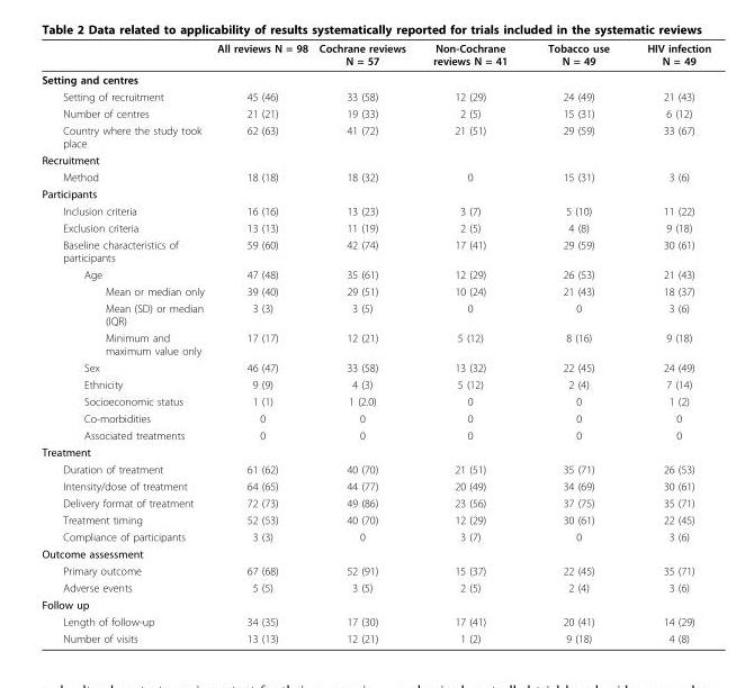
<table><thead><tr><td></td><td>All reviews N = 98</td><td>Cochrane reviews N = 57</td><td>Non-Cochrane reviews N = 41</td><td>Tobacco use N = 49</td><td>HIV infection N = 49</td></tr></thead><tbody><tr><td colspan="6">Setting and centres</td></tr><tr><td>Setting of recruitment</td><td>45 (46)</td><td>33 (58)</td><td>12 (29)</td><td>24 (49)</td><td>21 (43)</td></tr><tr><td>Number of centres</td><td>21 (21)</td><td>19 (33)</td><td>2 (5)</td><td>15 (31)</td><td>6 (12)</td></tr><tr><td>Country where the study took place</td><td>62 (63)</td><td>41 (72)</td><td>21 (51)</td><td>29 (59)</td><td>33 (67)</td></tr><tr><td colspan="6">Recruitment</td></tr><tr><td>Method</td><td>18 (18)</td><td>18 (32)</td><td>0</td><td>15 (31)</td><td>3 (6)</td></tr><tr><td colspan="6">Participants</td></tr><tr><td>Inclusion criteria</td><td>16 (16)</td><td>13 (23)</td><td>3 (7)</td><td>5 (10)</td><td>11 (22)</td></tr><tr><td>Exclusion criteria</td><td>13 (13)</td><td>11 (19)</td><td>2 (5)</td><td>4 (8)</td><td>9 (18)</td></tr><tr><td>Baseline characteristics of participants</td><td>59 (60)</td><td>42 (74)</td><td>17 (41)</td><td>29 (59)</td><td>30 (61)</td></tr><tr><td>Age</td><td>47 (48)</td><td>35 (61)</td><td>12 (29)</td><td>26 (53)</td><td>21 (43)</td></tr><tr><td>Mean or median only</td><td>39 (40)</td><td>29 (51)</td><td>10 (24)</td><td>21 (43)</td><td>18 (37)</td></tr><tr><td>Mean (SD) or median (IQR)</td><td>3 (3)</td><td>3 (5)</td><td>0</td><td>0</td><td>3 (6)</td></tr><tr><td>Minimum and maximum value only</td><td>17 (17)</td><td>12 (21)</td><td>5 (12)</td><td>8 (16)</td><td>9 (18)</td></tr><tr><td>Sex</td><td>46 (47)</td><td>33 (58)</td><td>13 (32)</td><td>22 (45)</td><td>24 (49)</td></tr><tr><td>Ethnicity</td><td>9 (9)</td><td>4 (3)</td><td>5 (12)</td><td>2 (4)</td><td>7 (14)</td></tr><tr><td>Socioeconomic status</td><td>1 (1)</td><td>1 (2.0)</td><td>0</td><td>0</td><td>1 (2)</td></tr><tr><td>Co-morbidities</td><td>0</td><td>0</td><td>0</td><td>0</td><td>0</td></tr><tr><td>Associated treatments</td><td>0</td><td>0</td><td>0</td><td>0</td><td>0</td></tr><tr><td colspan="6">Treatment</td></tr><tr><td>Duration of treatment</td><td>61 (62)</td><td>40 (70)</td><td>21 (51)</td><td>35 (71)</td><td>26 (53)</td></tr><tr><td>Intensity/dose of treatment</td><td>64 (65)</td><td>44 (77)</td><td>20 (49)</td><td>34 (69)</td><td>30 (61)</td></tr><tr><td>Delivery format of treatment</td><td>72 (73)</td><td>49 (86)</td><td>23 (56)</td><td>37 (75)</td><td>35 (71)</td></tr><tr><td>Treatment timing</td><td>52 (53)</td><td>40 (70)</td><td>12 (29)</td><td>30 (61)</td><td>22 (45)</td></tr><tr><td>Compliance of participants</td><td>3 (3)</td><td>0</td><td>3 (7)</td><td>0</td><td>3 (6)</td></tr><tr><td colspan="6">Outcome assessment</td></tr><tr><td>Primary outcome</td><td>67 (68)</td><td>52 (91)</td><td>15 (37)</td><td>22 (45)</td><td>35 (71)</td></tr><tr><td>Adverse events</td><td>5 (5)</td><td>3 (5)</td><td>2 (5)</td><td>2 (4)</td><td>3 (6)</td></tr><tr><td colspan="6">Follow up</td></tr><tr><td>Length of follow-up</td><td>34 (35)</td><td>17 (30)</td><td>17 (41)</td><td>20 (41)</td><td>14 (29)</td></tr><tr><td>Number of visits</td><td>13 (13)</td><td>12 (21)</td><td>1 (2)</td><td>9 (18)</td><td>4 (8)</td></tr></tbody></table>